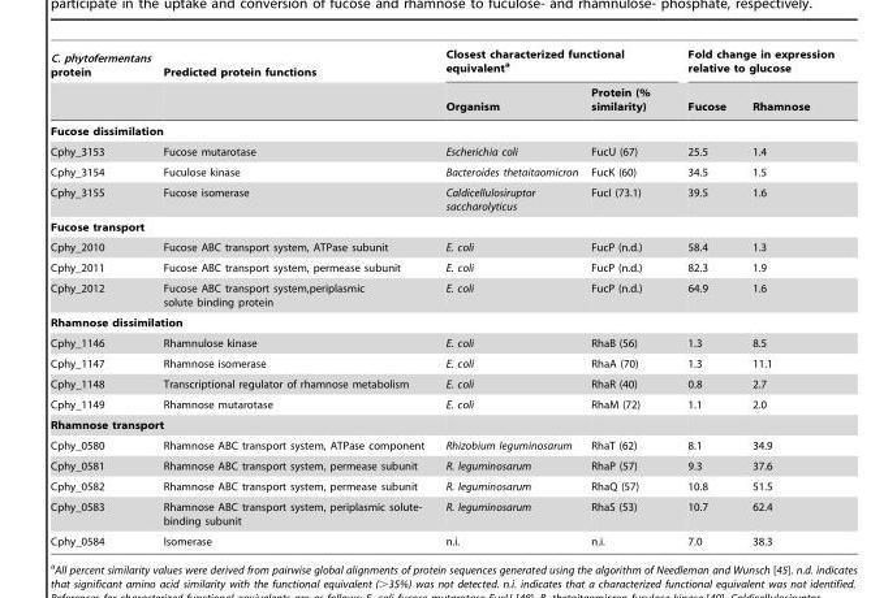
<table><thead><tr><td rowspan="2">C. phytofermentans protein</td><td rowspan="2">Predicted protein functions</td><td colspan="2">Closest characterized functional equivalent<sup>a</sup></td><td colspan="2">Fold change in expression relative to glucose</td></tr><tr><td>Organism</td><td>Protein (% similarity)</td><td>Fucose</td><td>Rhamnose</td></tr></thead><tbody><tr><td colspan="6">Fucose dissimilation</td></tr><tr><td>Cphy_3153</td><td>Fucose mutarotase</td><td>Escherichia coli</td><td>FucU (67)</td><td>25.5</td><td>1.4</td></tr><tr><td>Cphy_3154</td><td>Fuculose kinase</td><td>Bacteroides thetaitaomicron</td><td>FucK (60)</td><td>34.5</td><td>1.5</td></tr><tr><td>Cphy_3155</td><td>Fucose isomerase</td><td>Caldicellulosiruptor saccharolyticus</td><td>FucI (73.1)</td><td>39.5</td><td>1.6</td></tr><tr><td colspan="6">Fucose transport</td></tr><tr><td>Cphy_2010</td><td>Fucose ABC transport system, ATPase subunit</td><td>E. coli</td><td>FucP (n.d.)</td><td>58.4</td><td>1.3</td></tr><tr><td>Cphy_2011</td><td>Fucose ABC transport system, permease subunit</td><td>E. coli</td><td>FucP (n.d.)</td><td>82.3</td><td>1.9</td></tr><tr><td>Cphy_2012</td><td>Fucose ABC transport system,periplasmic solute binding protein</td><td>E. coli</td><td>FucP (n.d.)</td><td>64.9</td><td>1.6</td></tr><tr><td colspan="6">Rhamnose dissimilation</td></tr><tr><td>Cphy_1146</td><td>Rhamnulose kinase</td><td>E. coli</td><td>RhaB (56)</td><td>1.3</td><td>8.5</td></tr><tr><td>Cphy_1147</td><td>Rhamnose isomerase</td><td>E. coli</td><td>RhaA (70)</td><td>1.3</td><td>11.1</td></tr><tr><td>Cphy_1148</td><td>Transcriptional regulator of rhamnose metabolism</td><td>E. coli</td><td>RhaR (40)</td><td>0.8</td><td>2.7</td></tr><tr><td>Cphy_1149</td><td>Rhamnose mutarotase</td><td>E. coli</td><td>RhaM (72)</td><td>1.1</td><td>2.0</td></tr><tr><td colspan="6">Rhamnose transport</td></tr><tr><td>Cphy_0580</td><td>Rhamnose ABC transport system, ATPase component</td><td>Rhizobium leguminosarum</td><td>RhaT (62)</td><td>8.1</td><td>34.9</td></tr><tr><td>Cphy_0581</td><td>Rhamnose ABC transport system, permease subunit</td><td>R. leguminosarum</td><td>RhaP (57)</td><td>9.3</td><td>37.6</td></tr><tr><td>Cphy_0582</td><td>Rhamnose ABC transport system, permease subunit</td><td>R. leguminosarum</td><td>RhaQ (57)</td><td>10.8</td><td>51.5</td></tr><tr><td>Cphy_0583</td><td>Rhamnose ABC transport system, periplasmic solute- binding subunit</td><td>R. leguminosarum</td><td>RhaS (53)</td><td>10.7</td><td>62.4</td></tr><tr><td>Cphy_0584</td><td>Isomerase</td><td>n.i.</td><td>n.i.</td><td>7.0</td><td>38.3</td></tr></tbody></table>